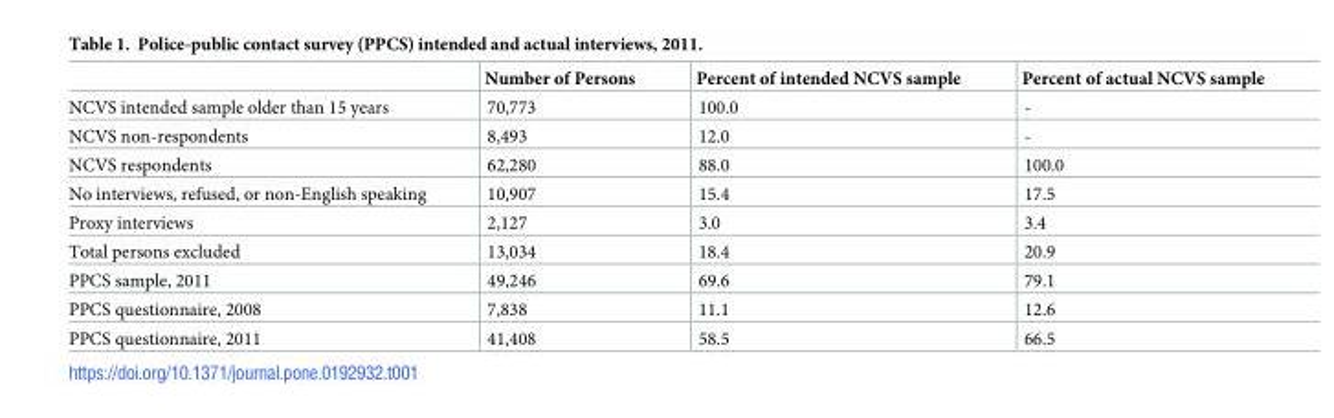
<table><thead><tr><td></td><td>Number of Persons</td><td>Percent of intended NCVS sample</td><td>Percent of actual NCVS sample</td></tr></thead><tbody><tr><td>NCVS intended sample older than 15 years</td><td>70,773</td><td>100.0</td><td>-</td></tr><tr><td>NCVS non-respondents</td><td>8,493</td><td>12.0</td><td>-</td></tr><tr><td>NCVS respondents</td><td>62,280</td><td>88.0</td><td>100.0</td></tr><tr><td>No interviews, refused, or non-English speaking</td><td>10,907</td><td>15.4</td><td>17.5</td></tr><tr><td>Proxy interviews</td><td>2,127</td><td>3.0</td><td>3.4</td></tr><tr><td>Total persons excluded</td><td>13,034</td><td>18.4</td><td>20.9</td></tr><tr><td>PPCS sample, 2011</td><td>49,246</td><td>69.6</td><td>79.1</td></tr><tr><td>PPCS questionnaire, 2008</td><td>7,838</td><td>11.1</td><td>12.6</td></tr><tr><td>PPCS questionnaire, 2011</td><td>41,408</td><td>58.5</td><td>66.5</td></tr></tbody></table>